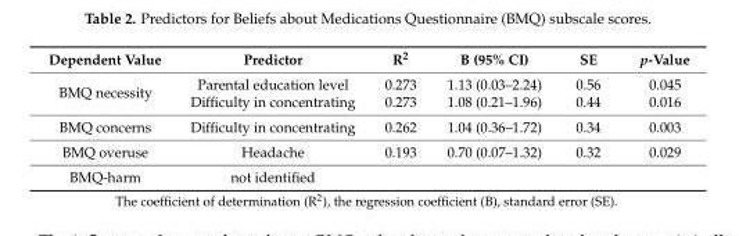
<table><thead><tr><td>Dependent Value</td><td>Predictor</td><td>R<sup>2</sup></td><td>B (95% CI)</td><td>SE</td><td>p-Value</td></tr></thead><tbody><tr><td rowspan="2">BMQ necessity</td><td>Parental education level</td><td>0.273</td><td>1.13 (0.03–2.24)</td><td>0.56</td><td>0.045</td></tr><tr><td>Difficulty in concentrating</td><td>0.273</td><td>1.08 (0.21–1.96)</td><td>0.44</td><td>0.016</td></tr><tr><td>BMQ concerns</td><td>Difficulty in concentrating</td><td>0.262</td><td>1.04 (0.36–1.72)</td><td>0.34</td><td>0.003</td></tr><tr><td>BMQ overuse</td><td>Headache</td><td>0.193</td><td>0.70 (0.07–1.32)</td><td>0.32</td><td>0.029</td></tr><tr><td>BMQ-harm</td><td>not identified</td><td></td><td></td><td></td><td></td></tr></tbody></table>